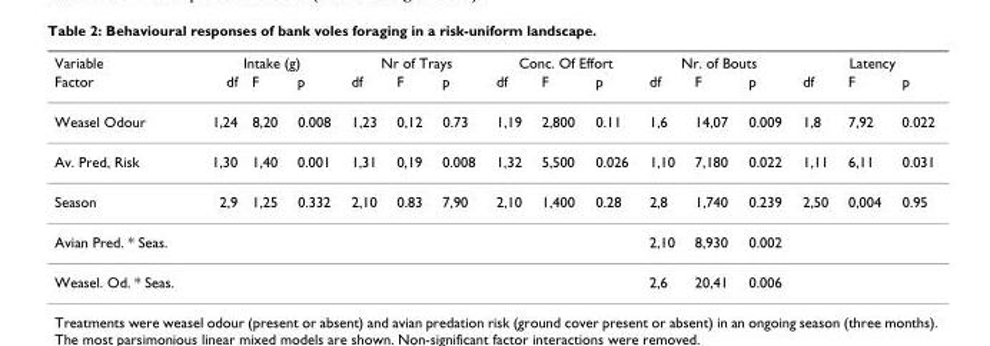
<table><thead><tr><td rowspan="2">Variable Factor</td><td colspan="3">Intake (g)</td><td colspan="3">Nr of Trays</td><td colspan="3">Conc. Of Effort</td><td colspan="3">Nr. of Bouts</td><td colspan="3">Latency</td></tr><tr><td>df</td><td>F</td><td>p</td><td>df</td><td>F</td><td>p</td><td>df</td><td>F</td><td>p</td><td>df</td><td>F</td><td>p</td><td>df</td><td>F</td><td>p</td></tr></thead><tbody><tr><td>Weasel Odour</td><td>1,24</td><td>8,20</td><td>0.008</td><td>1,23</td><td>0,12</td><td>0.73</td><td>1,19</td><td>2,800</td><td>0.11</td><td>1,6</td><td>14,07</td><td>0.009</td><td>1,8</td><td>7,92</td><td>0.022</td></tr><tr><td>Av. Pred, Risk</td><td>1,30</td><td>1,40</td><td>0.001</td><td>1,31</td><td>0,19</td><td>0.008</td><td>1,32</td><td>5,500</td><td>0.026</td><td>1,10</td><td>7,180</td><td>0.022</td><td>1,11</td><td>6,11</td><td>0.031</td></tr><tr><td>Season</td><td>2,9</td><td>1,25</td><td>0.332</td><td>2,10</td><td>0.83</td><td>7,90</td><td>2,10</td><td>1,400</td><td>0.28</td><td>2,8</td><td>1,740</td><td>0.239</td><td>2,50</td><td>0,004</td><td>0.95</td></tr><tr><td>Avian Pred. * Seas.</td><td></td><td></td><td></td><td></td><td></td><td></td><td></td><td></td><td></td><td>2,10</td><td>8,930</td><td>0.002</td><td></td><td></td><td></td></tr><tr><td>Weasel. Od. * Seas.</td><td></td><td></td><td></td><td></td><td></td><td></td><td></td><td></td><td></td><td>2,6</td><td>20,41</td><td>0.006</td><td></td><td></td><td></td></tr></tbody></table>